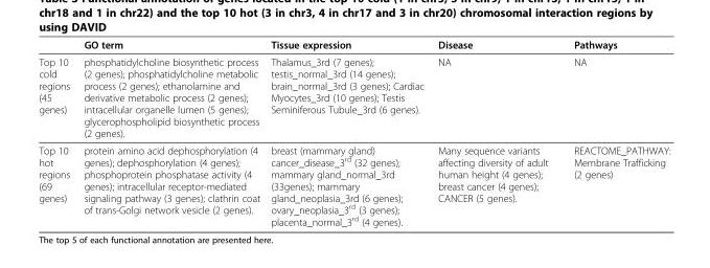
<table><thead><tr><td></td><td>GO term</td><td>Tissue expression</td><td>Disease</td><td>Pathways</td></tr></thead><tbody><tr><td>Top 10 cold regions (45 genes)</td><td>phosphatidylcholine biosynthetic process (2 genes); phosphatidylcholine metabolic process (2 genes); ethanolamine and derivative metabolic process (2 genes); intracellular organelle lumen (5 genes); glycerophospholipid biosynthetic process (2 genes).</td><td>Thalamus_3rd (7 genes); testis_normal_3rd (14 genes); brain_normal_3rd (3 genes); Cardiac Myocytes_3rd (10 genes); Testis Seminiferous Tubule_3rd (6 genes).</td><td>NA</td><td>NA</td></tr><tr><td>Top 10 hot regions (69 genes)</td><td>protein amino acid dephosphorylation (4 genes); dephosphorylation (4 genes); phosphoprotein phosphatase activity (4 genes); intracellular receptor-mediated signaling pathway (3 genes); clathrin coat of trans-Golgi network vesicle (2 genes).</td><td>breast (mammary gland) cancer_disease_3<sup>rd</sup> (32 genes); mammary gland_normal_3rd (33genes); mammary gland_neoplasia_3rd (6 genes); ovary_neoplasia_3<sup>rd</sup> (3 genes); placenta_normal_3<sup>rd</sup> (4 genes).</td><td>Many sequence variants affecting diversity of adult human height (4 genes); breast cancer (4 genes); CANCER (5 genes).</td><td>REACTOME_PATHWAY: Membrane Trafficking (2 genes)</td></tr></tbody></table>